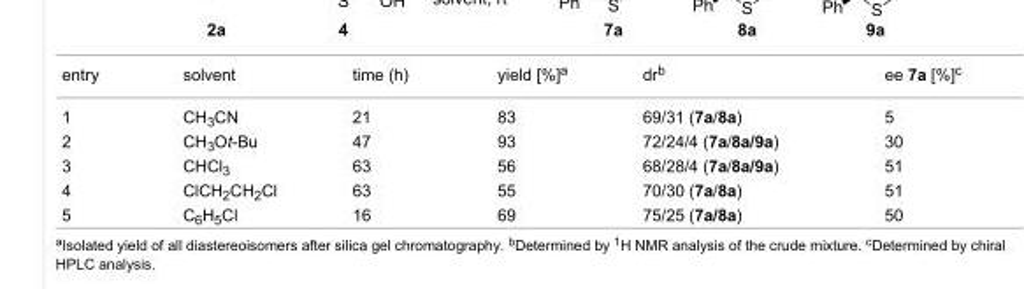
<table><tbody><tr><td>entry</td><td>solvent</td><td>time (h)</td><td>yield [%]<sup>a</sup></td><td>dr<sup>b</sup></td><td>ee 7a [%]<sup>c</sup></td></tr><tr><td>1</td><td>CH<sub>3</sub>CN</td><td>21</td><td>83</td><td>69/31 (7a/8a)</td><td>5</td></tr><tr><td>2</td><td>CH<sub>3</sub>Ot-Bu</td><td>47</td><td>93</td><td>72/24/4 (7a/8a/9a)</td><td>30</td></tr><tr><td>3</td><td>CHCl<sub>3</sub></td><td>63</td><td>56</td><td>68/28/4 (7a/8a/9a)</td><td>51</td></tr><tr><td>4</td><td>ClCH<sub>2</sub>CH<sub>2</sub>Cl</td><td>63</td><td>55</td><td>70/30 (7a/8a)</td><td>51</td></tr><tr><td>5</td><td>C<sub>6</sub>H<sub>5</sub>Cl</td><td>16</td><td>69</td><td>75/25 (7a/8a)</td><td>50</td></tr></tbody></table>